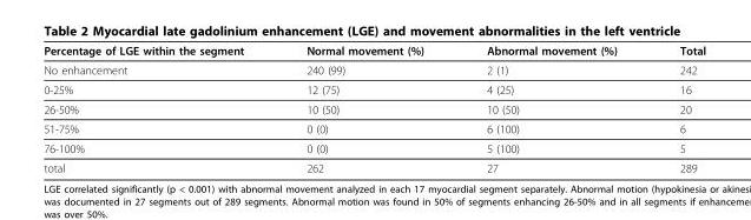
<table><thead><tr><td>Percentage of LGE within the segment</td><td>Normal movement (%)</td><td>Abnormal movement (%)</td><td>Total</td></tr></thead><tbody><tr><td>No enhancement</td><td>240 (99)</td><td>2 (1)</td><td>242</td></tr><tr><td>0-25%</td><td>12 (75)</td><td>4 (25)</td><td>16</td></tr><tr><td>26-50%</td><td>10 (50)</td><td>10 (50)</td><td>20</td></tr><tr><td>51-75%</td><td>0 (0)</td><td>6 (100)</td><td>6</td></tr><tr><td>76-100%</td><td>0 (0)</td><td>5 (100)</td><td>5</td></tr><tr><td>total</td><td>262</td><td>27</td><td>289</td></tr></tbody></table>